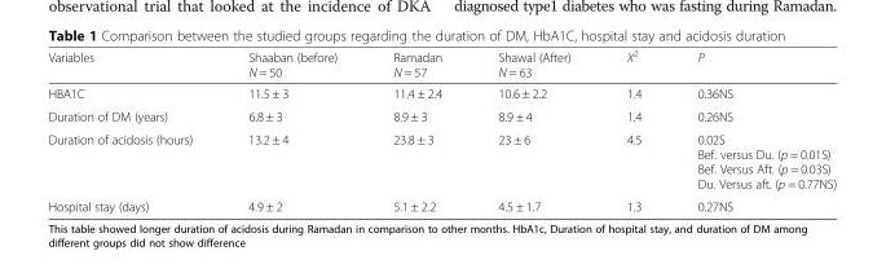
<table><thead><tr><td>Variables</td><td>Shaaban (before) N = 50</td><td>Ramadan N = 57</td><td>Shawal (After) N = 63</td><td>X<sup>2</sup></td><td>P</td></tr></thead><tbody><tr><td>HBA1C</td><td>11.5 ± 3</td><td>11.4 ± 2.4</td><td>10.6 ± 2.2</td><td>1.4</td><td>0.36NS</td></tr><tr><td>Duration of DM (years)</td><td>6.8 ± 3</td><td>8.9 ± 3</td><td>8.9 ± 4</td><td>1.4</td><td>0.26NS</td></tr><tr><td>Duration of acidosis (hours)</td><td>13.2 ± 4</td><td>23.8 ± 3</td><td>23 ± 6</td><td>4.5</td><td>0.02S Bef. versus Du. (p = 0.01S) Bef. Versus Aft. (p = 0.03S) Du. Versus aft. (p = 0.77NS)</td></tr><tr><td>Hospital stay (days)</td><td>4.9 ± 2</td><td>5.1 ± 2.2</td><td>4.5 ± 1.7</td><td>1.3</td><td>0.27NS</td></tr></tbody></table>